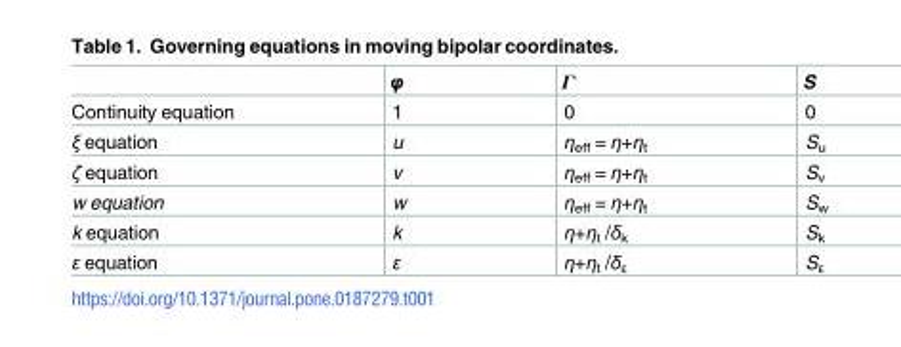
<table><thead><tr><td></td><td>φ</td><td>Γ</td><td>S</td></tr></thead><tbody><tr><td>Continuity equation</td><td>1</td><td>0</td><td>0</td></tr><tr><td>ξ equation</td><td>u</td><td>η<sub>eff</sub> = η+η<sub>t</sub></td><td>S<sub>u</sub></td></tr><tr><td>ζ equation</td><td>v</td><td>η<sub>eff</sub> = η+η<sub>t</sub></td><td>S<sub>v</sub></td></tr><tr><td>w equation</td><td>w</td><td>η<sub>eff</sub> = η+η<sub>t</sub></td><td>S<sub>w</sub></td></tr><tr><td>k equation</td><td>k</td><td>η+η<sub>t</sub> /δ<sub>k</sub></td><td>S<sub>k</sub></td></tr><tr><td>ε equation</td><td>ε</td><td>η+η<sub>t</sub> /δ<sub>ε</sub></td><td>S<sub>ε</sub></td></tr></tbody></table>